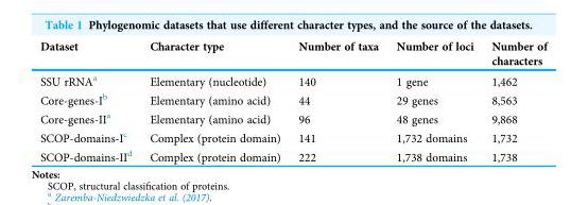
<table><thead><tr><td>Dataset</td><td>Character type</td><td>Number of taxa</td><td>Number of loci</td><td>Number of characters</td></tr></thead><tbody><tr><td>SSU rRNA<sup>a</sup></td><td>Elementary (nucleotide)</td><td>140</td><td>1 gene</td><td>1,462</td></tr><tr><td>Core-genes-I<sup>b</sup></td><td>Elementary (amino acid)</td><td>44</td><td>29 genes</td><td>8,563</td></tr><tr><td>Core-genes-II<sup>a</sup></td><td>Elementary (amino acid)</td><td>96</td><td>48 genes</td><td>9,868</td></tr><tr><td>SCOP-domains-I<sup>c</sup></td><td>Complex (protein domain)</td><td>141</td><td>1,732 domains</td><td>1,732</td></tr><tr><td>SCOP-domains-II<sup>d</sup></td><td>Complex (protein domain)</td><td>222</td><td>1,738 domains</td><td>1,738</td></tr></tbody></table>